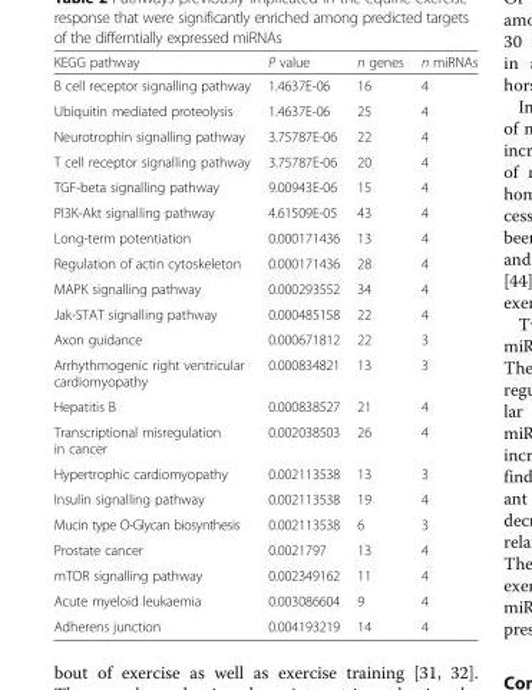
<table><thead><tr><td>KEGG pathway</td><td>P value</td><td>n genes</td><td>n miRNAs</td></tr></thead><tbody><tr><td>B cell receptor signalling pathway</td><td>1.4637E-06</td><td>16</td><td>4</td></tr><tr><td>Ubiquitin mediated proteolysis</td><td>1.4637E-06</td><td>25</td><td>4</td></tr><tr><td>Neurotrophin signalling pathway</td><td>3.75787E-06</td><td>22</td><td>4</td></tr><tr><td>T cell receptor signalling pathway</td><td>3.75787E-06</td><td>20</td><td>4</td></tr><tr><td>TGF-beta signalling pathway</td><td>9.00943E-06</td><td>15</td><td>4</td></tr><tr><td>PI3K-Akt signalling pathway</td><td>4.61509E-05</td><td>43</td><td>4</td></tr><tr><td>Long-term potentiation</td><td>0.000171436</td><td>13</td><td>4</td></tr><tr><td>Regulation of actin cytoskeleton</td><td>0.000171436</td><td>28</td><td>4</td></tr><tr><td>MAPK signalling pathway</td><td>0.000293552</td><td>34</td><td>4</td></tr><tr><td>Jak-STAT signalling pathway</td><td>0.000485158</td><td>22</td><td>4</td></tr><tr><td>Axon guidance</td><td>0.000671812</td><td>22</td><td>3</td></tr><tr><td>Arrhythmogenic right ventricular cardiomyopathy</td><td>0.000834821</td><td>13</td><td>3</td></tr><tr><td>Hepatitis B</td><td>0.000838527</td><td>21</td><td>4</td></tr><tr><td>Transcriptional misregulation in cancer</td><td>0.002038503</td><td>26</td><td>4</td></tr><tr><td>Hypertrophic cardiomyopathy</td><td>0.002113538</td><td>13</td><td>3</td></tr><tr><td>Insulin signalling pathway</td><td>0.002113538</td><td>19</td><td>4</td></tr><tr><td>Mucin type O-Glycan biosynthesis</td><td>0.002113538</td><td>6</td><td>3</td></tr><tr><td>Prostate cancer</td><td>0.0021797</td><td>13</td><td>4</td></tr><tr><td>mTOR signalling pathway</td><td>0.002349162</td><td>11</td><td>4</td></tr><tr><td>Acute myeloid leukaemia</td><td>0.003086604</td><td>9</td><td>4</td></tr><tr><td>Adherens junction</td><td>0.004193219</td><td>14</td><td>4</td></tr></tbody></table>